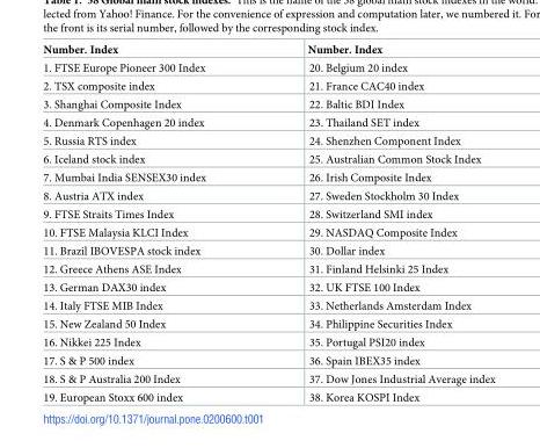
<table><thead><tr><td>Number. Index</td><td>Number. Index</td></tr></thead><tbody><tr><td>1. FTSE Europe Pioneer 300 Index</td><td>20. Belgium 20 index</td></tr><tr><td>2. TSX composite index</td><td>21. France CAC40 index</td></tr><tr><td>3. Shanghai Composite Index</td><td>22. Baltic BDI Index</td></tr><tr><td>4. Denmark Copenhagen 20 index</td><td>23. Thailand SET index</td></tr><tr><td>5. Russia RTS index</td><td>24. Shenzhen Component Index</td></tr><tr><td>6. Iceland stock index</td><td>25. Australian Common Stock Index</td></tr><tr><td>7. Mumbai India SENSEX30 index</td><td>26. Irish Composite Index</td></tr><tr><td>8. Austria ATX index</td><td>27. Sweden Stockholm 30 Index</td></tr><tr><td>9. FTSE Straits Times Index</td><td>28. Switzerland SMI index</td></tr><tr><td>10. FTSE Malaysia KLCI Index</td><td>29. NASDAQ Composite Index</td></tr><tr><td>11. Brazil IBOVESPA stock index</td><td>30. Dollar index</td></tr><tr><td>12. Greece Athens ASE Index</td><td>31. Finland Helsinki 25 Index</td></tr><tr><td>13. German DAX30 index</td><td>32. UK FTSE 100 Index</td></tr><tr><td>14. Italy FTSE MIB Index</td><td>33. Netherlands Amsterdam Index</td></tr><tr><td>15. New Zealand 50 Index</td><td>34. Philippine Securities Index</td></tr><tr><td>16. Nikkei 225 Index</td><td>35. Portugal PSI20 index</td></tr><tr><td>17. S &amp; P 500 index</td><td>36. Spain IBEX35 index</td></tr><tr><td>18. S &amp; P Australia 200 Index</td><td>37. Dow Jones Industrial Average index</td></tr><tr><td>19. European Stoxx 600 index</td><td>38. Korea KOSPI Index</td></tr></tbody></table>